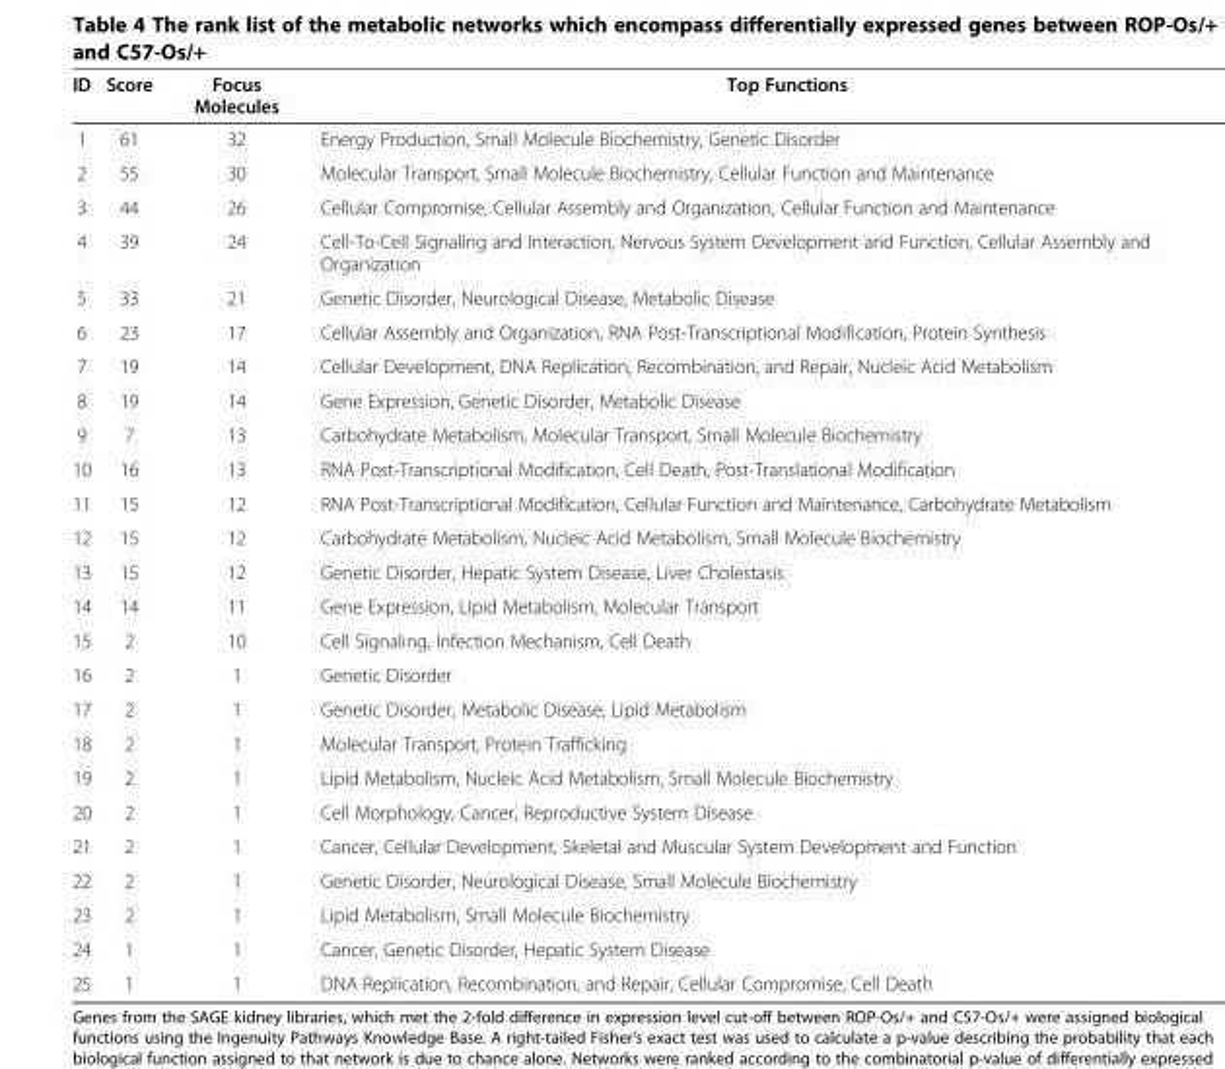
<table><thead><tr><td>ID</td><td>Score</td><td>Focus Molecules</td><td>Top Functions</td></tr></thead><tbody><tr><td>1</td><td>61</td><td>32</td><td>Energy Production, Small Molecule Biochemistry, Genetic Disorder</td></tr><tr><td>2</td><td>55</td><td>30</td><td>Molecular Transport, Small Molecule Biochemistry, Cellular Function and Maintenance</td></tr><tr><td>3</td><td>44</td><td>26</td><td>Cellular Compromise, Cellular Assembly and Organization, Cellular Function and Maintenance</td></tr><tr><td>4</td><td>39</td><td>24</td><td>Cell-To-Cell Signaling and Interaction, Nervous System Development and Function, Cellular Assembly and Organization</td></tr><tr><td>5</td><td>33</td><td>21</td><td>Genetic Disorder, Neurological Disease, Metabolic Disease</td></tr><tr><td>6</td><td>23</td><td>17</td><td>Cellular Assembly and Organization, RNA Post-Transcriptional Modification, Protein Synthesis</td></tr><tr><td>7</td><td>19</td><td>14</td><td>Cellular Development, DNA Replication, Recombination, and Repair, Nucleic Acid Metabolism</td></tr><tr><td>8</td><td>19</td><td>14</td><td>Gene Expression, Genetic Disorder, Metabolic Disease</td></tr><tr><td>9</td><td>7</td><td>13</td><td>Carbohydrate Metabolism, Molecular Transport, Small Molecule Biochemistry</td></tr><tr><td>10</td><td>16</td><td>13</td><td>RNA Post-Transcriptional Modification, Cell Death, Post-Translational Modification</td></tr><tr><td>11</td><td>15</td><td>12</td><td>RNA Post-Transcriptional Modification, Cellular Function and Maintenance, Carbohydrate Metabolism</td></tr><tr><td>12</td><td>15</td><td>12</td><td>Carbohydrate Metabolism, Nucleic Acid Metabolism, Small Molecule Biochemistry</td></tr><tr><td>13</td><td>15</td><td>12</td><td>Genetic Disorder, Hepatic System Disease, Liver Cholestasis</td></tr><tr><td>14</td><td>14</td><td>11</td><td>Gene Expression, Lipid Metabolism, Molecular Transport</td></tr><tr><td>15</td><td>2</td><td>10</td><td>Cell Signaling, Infection Mechanism, Cell Death</td></tr><tr><td>16</td><td>2</td><td>1</td><td>Genetic Disorder</td></tr><tr><td>17</td><td>2</td><td>1</td><td>Genetic Disorder, Metabolic Disease, Lipid Metabolism</td></tr><tr><td>18</td><td>2</td><td>1</td><td>Molecular Transport, Protein Trafficking</td></tr><tr><td>19</td><td>2</td><td>1</td><td>Lipid Metabolism, Nucleic Acid Metabolism, Small Molecule Biochemistry</td></tr><tr><td>20</td><td>2</td><td>1</td><td>Cell Morphology, Cancer, Reproductive System Disease</td></tr><tr><td>21</td><td>2</td><td>1</td><td>Cancer, Cellular Development, Skeletal and Muscular System Development and Function</td></tr><tr><td>22</td><td>2</td><td>1</td><td>Genetic Disorder, Neurological Disease, Small Molecule Biochemistry</td></tr><tr><td>23</td><td>2</td><td>1</td><td>Lipid Metabolism, Small Molecule Biochemistry</td></tr><tr><td>24</td><td>1</td><td>1</td><td>Cancer, Genetic Disorder, Hepatic System Disease</td></tr><tr><td>25</td><td>1</td><td>1</td><td>DNA Replication, Recombination, and Repair, Cellular Compromise, Cell Death</td></tr></tbody></table>